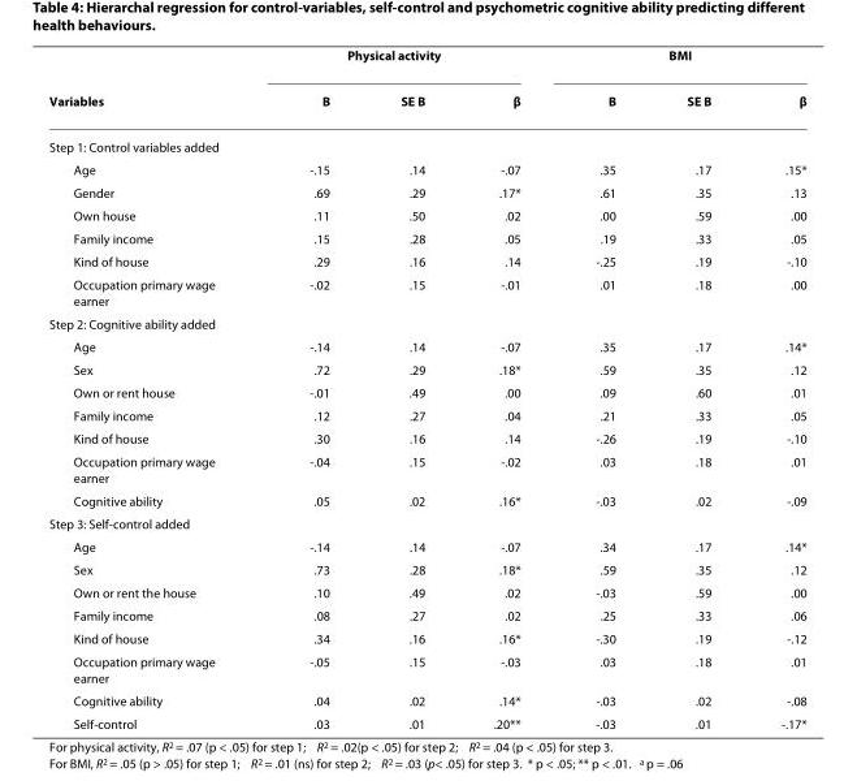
<table><thead><tr><td rowspan="2">Variables</td><td colspan="3">Physical activity</td><td colspan="3">BMI</td></tr><tr><td>B</td><td>SE B</td><td>β</td><td>B</td><td>SE B</td><td>β</td></tr></thead><tbody><tr><td colspan="7">Step 1: Control variables added</td></tr><tr><td>Age</td><td>-.15</td><td>.14</td><td>-.07</td><td>.35</td><td>.17</td><td>.15*</td></tr><tr><td>Gender</td><td>.69</td><td>.29</td><td>.17*</td><td>.61</td><td>.35</td><td>.13</td></tr><tr><td>Own house</td><td>.11</td><td>.50</td><td>.02</td><td>.00</td><td>.59</td><td>.00</td></tr><tr><td>Family income</td><td>.15</td><td>.28</td><td>.05</td><td>.19</td><td>.33</td><td>.05</td></tr><tr><td>Kind of house</td><td>.29</td><td>.16</td><td>.14</td><td>-.25</td><td>.19</td><td>-.10</td></tr><tr><td>Occupation primary wage earner</td><td>-.02</td><td>.15</td><td>-.01</td><td>.01</td><td>.18</td><td>.00</td></tr><tr><td colspan="7">Step 2: Cognitive ability added</td></tr><tr><td>Age</td><td>-.14</td><td>.14</td><td>-.07</td><td>.35</td><td>.17</td><td>.14*</td></tr><tr><td>Sex</td><td>.72</td><td>.29</td><td>.18*</td><td>.59</td><td>.35</td><td>.12</td></tr><tr><td>Own or rent house</td><td>-.01</td><td>.49</td><td>.00</td><td>.09</td><td>.60</td><td>.01</td></tr><tr><td>Family income</td><td>.12</td><td>.27</td><td>.04</td><td>.21</td><td>.33</td><td>.05</td></tr><tr><td>Kind of house</td><td>.30</td><td>.16</td><td>.14</td><td>-.26</td><td>.19</td><td>-.10</td></tr><tr><td>Occupation primary wage earner</td><td>-.04</td><td>.15</td><td>-.02</td><td>.03</td><td>.18</td><td>.01</td></tr><tr><td>Cognitive ability</td><td>.05</td><td>.02</td><td>.16*</td><td>-.03</td><td>.02</td><td>-.09</td></tr><tr><td colspan="7">Step 3: Self-control added</td></tr><tr><td>Age</td><td>-.14</td><td>.14</td><td>-.07</td><td>.34</td><td>.17</td><td>.14*</td></tr><tr><td>Sex</td><td>.73</td><td>.28</td><td>.18*</td><td>.59</td><td>.35</td><td>.12</td></tr><tr><td>Own or rent the house</td><td>.10</td><td>.49</td><td>.02</td><td>-.03</td><td>.59</td><td>.00</td></tr><tr><td>Family income</td><td>.08</td><td>.27</td><td>.02</td><td>.25</td><td>.33</td><td>.06</td></tr><tr><td>Kind of house</td><td>.34</td><td>.16</td><td>.16*</td><td>-.30</td><td>.19</td><td>-.12</td></tr><tr><td>Occupation primary wage earner</td><td>-.05</td><td>.15</td><td>-.03</td><td>.03</td><td>.18</td><td>.01</td></tr><tr><td>Cognitive ability</td><td>.04</td><td>.02</td><td>.14*</td><td>-.03</td><td>.02</td><td>-.08</td></tr><tr><td>Self-control</td><td>.03</td><td>.01</td><td>.20**</td><td>-.03</td><td>.01</td><td>-.17*</td></tr></tbody></table>